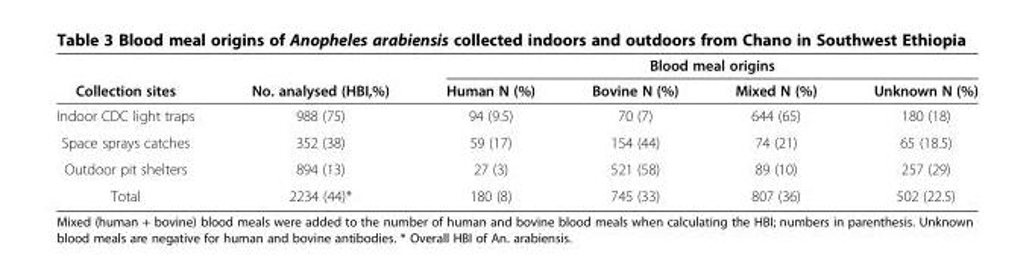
<table><thead><tr><td rowspan="2">Collection sites</td><td rowspan="2">No. analysed (HBI,%)</td><td colspan="4">Blood meal origins</td></tr><tr><td>Human N (%)</td><td>Bovine N (%)</td><td>Mixed N (%)</td><td>Unknown N (%)</td></tr></thead><tbody><tr><td>Indoor CDC light traps</td><td>988 (75)</td><td>94 (9.5)</td><td>70 (7)</td><td>644 (65)</td><td>180 (18)</td></tr><tr><td>Space sprays catches</td><td>352 (38)</td><td>59 (17)</td><td>154 (44)</td><td>74 (21)</td><td>65 (18.5)</td></tr><tr><td>Outdoor pit shelters</td><td>894 (13)</td><td>27 (3)</td><td>521 (58)</td><td>89 (10)</td><td>257 (29)</td></tr><tr><td>Total</td><td>2234 (44)*</td><td>180 (8)</td><td>745 (33)</td><td>807 (36)</td><td>502 (22.5)</td></tr></tbody></table>